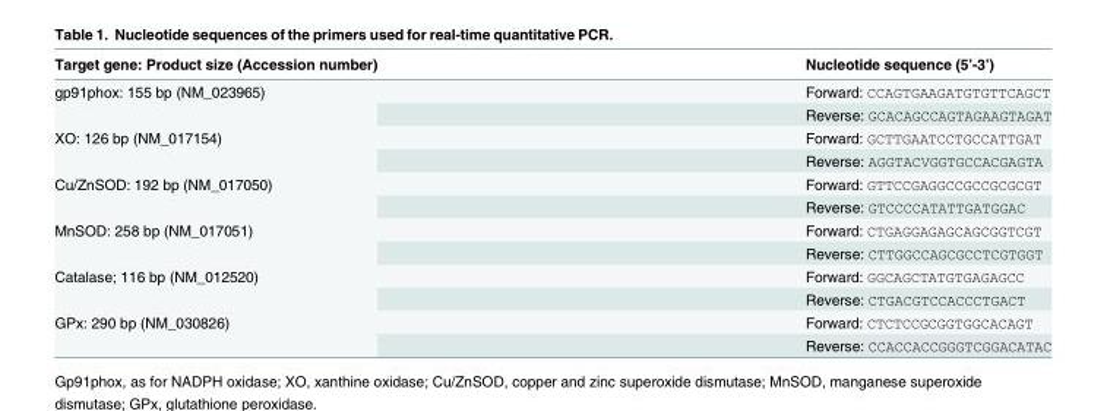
<table><thead><tr><td>Target gene: Product size (Accession number)</td><td>Nucleotide sequence (5’-3’)</td></tr></thead><tbody><tr><td rowspan="2">gp91phox: 155 bp (NM_023965)</td><td>Forward: CCAGTGAAGATGTGTTCAGCT</td></tr><tr><td>Reverse: GCACAGCCAGTAGAAGTAGAT</td></tr><tr><td rowspan="2">XO: 126 bp (NM_017154)</td><td>Forward: GCTTGAATCCTGCCATTGAT</td></tr><tr><td>Reverse: AGGTACVGGTGCCACGAGTA</td></tr><tr><td rowspan="2">Cu/ZnSOD: 192 bp (NM_017050)</td><td>Forward: GTTCCGAGGCCGCCGCGCGT</td></tr><tr><td>Reverse: GTCCCCATATTGATGGAC</td></tr><tr><td rowspan="2">MnSOD: 258 bp (NM_017051)</td><td>Forward: CTGAGGAGAGCAGCGGTCGT</td></tr><tr><td>Reverse: CTTGGCCAGCGCCTCGTGGT</td></tr><tr><td rowspan="2">Catalase; 116 bp (NM_012520)</td><td>Forward: GGCAGCTATGTGAGAGCC</td></tr><tr><td>Reverse: CTGACGTCCACCCTGACT</td></tr><tr><td rowspan="2">GPx: 290 bp (NM_030826)</td><td>Forward: CTCTCCGCGGTGGCACAGT</td></tr><tr><td>Reverse: CCACCACCGGGTCGGACATAC</td></tr></tbody></table>